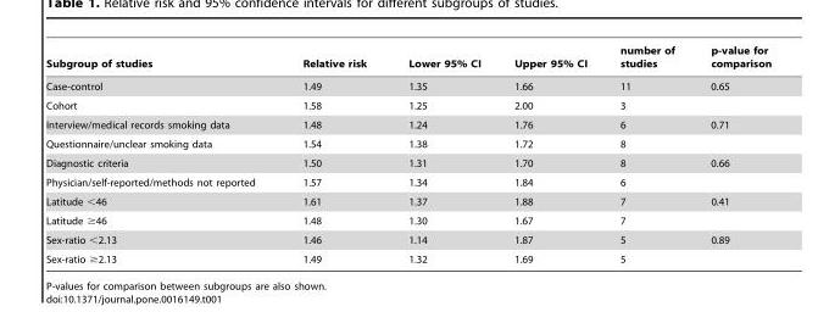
<table><thead><tr><td>Subgroup of studies</td><td>Relative risk</td><td>Lower 95% CI</td><td>Upper 95% CI</td><td>number of studies</td><td>p-value for comparison</td></tr></thead><tbody><tr><td>Case-control</td><td>1.49</td><td>1.35</td><td>1.66</td><td>11</td><td>0.65</td></tr><tr><td>Cohort</td><td>1.58</td><td>1.25</td><td>2.00</td><td>3</td><td></td></tr><tr><td>Interview/medical records smoking data</td><td>1.48</td><td>1.24</td><td>1.76</td><td>6</td><td>0.71</td></tr><tr><td>Questionnaire/unclear smoking data</td><td>1.54</td><td>1.38</td><td>1.72</td><td>8</td><td></td></tr><tr><td>Diagnostic criteria</td><td>1.50</td><td>1.31</td><td>1.70</td><td>8</td><td>0.66</td></tr><tr><td>Physician/self-reported/methods not reported</td><td>1.57</td><td>1.34</td><td>1.84</td><td>6</td><td></td></tr><tr><td>Latitude &lt;46</td><td>1.61</td><td>1.37</td><td>1.88</td><td>7</td><td>0.41</td></tr><tr><td>Latitude ≥46</td><td>1.48</td><td>1.30</td><td>1.67</td><td>7</td><td></td></tr><tr><td>Sex-ratio &lt;2.13</td><td>1.46</td><td>1.14</td><td>1.87</td><td>5</td><td>0.89</td></tr><tr><td>Sex-ratio ≥2.13</td><td>1.49</td><td>1.32</td><td>1.69</td><td>5</td><td></td></tr></tbody></table>